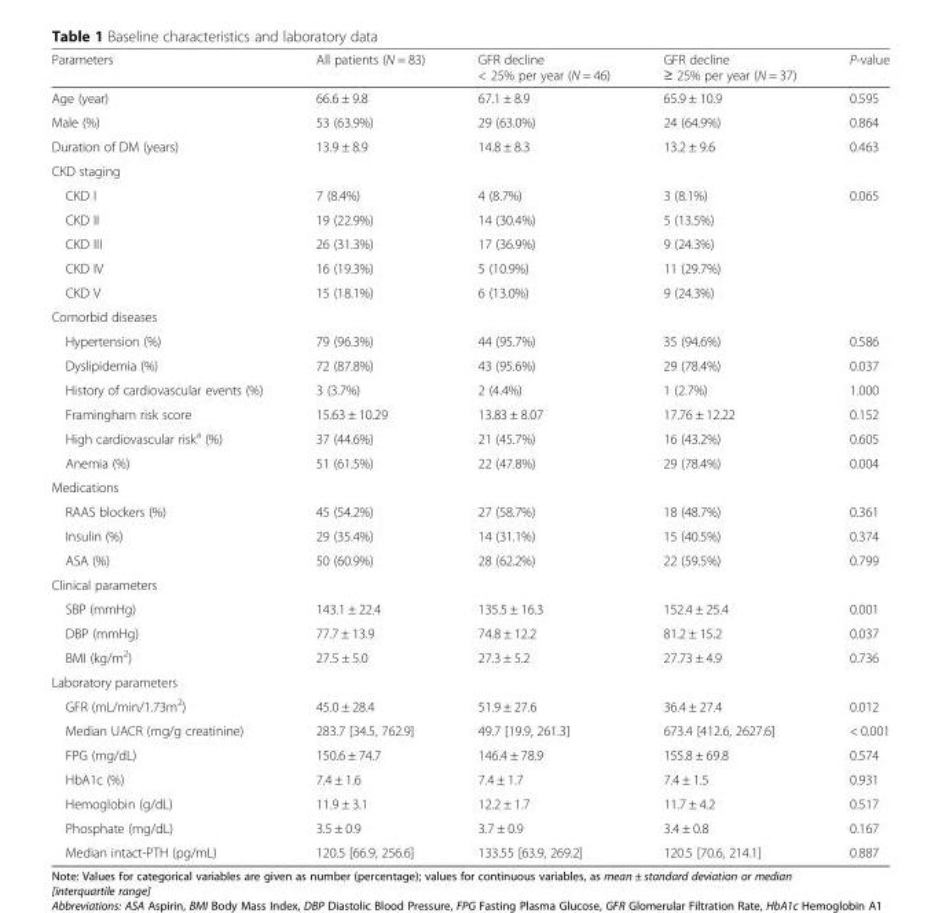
<table><thead><tr><td>Parameters</td><td>All patients (N = 83)</td><td>GFR decline &lt; 25% per year (N = 46)</td><td>GFR decline ≥ 25% per year (N = 37)</td><td>P-value</td></tr></thead><tbody><tr><td>Age (year)</td><td>66.6 ± 9.8</td><td>67.1 ± 8.9</td><td>65.9 ± 10.9</td><td>0.595</td></tr><tr><td>Male (%)</td><td>53 (63.9%)</td><td>29 (63.0%)</td><td>24 (64.9%)</td><td>0.864</td></tr><tr><td>Duration of DM (years)</td><td>13.9 ± 8.9</td><td>14.8 ± 8.3</td><td>13.2 ± 9.6</td><td>0.463</td></tr><tr><td colspan="5">CKD staging</td></tr><tr><td>CKD I</td><td>7 (8.4%)</td><td>4 (8.7%)</td><td>3 (8.1%)</td><td>0.065</td></tr><tr><td>CKD II</td><td>19 (22.9%)</td><td>14 (30.4%)</td><td>5 (13.5%)</td><td></td></tr><tr><td>CKD III</td><td>26 (31.3%)</td><td>17 (36.9%)</td><td>9 (24.3%)</td><td></td></tr><tr><td>CKD IV</td><td>16 (19.3%)</td><td>5 (10.9%)</td><td>11 (29.7%)</td><td></td></tr><tr><td>CKD V</td><td>15 (18.1%)</td><td>6 (13.0%)</td><td>9 (24.3%)</td><td></td></tr><tr><td colspan="5">Comorbid diseases</td></tr><tr><td>Hypertension (%)</td><td>79 (96.3%)</td><td>44 (95.7%)</td><td>35 (94.6%)</td><td>0.586</td></tr><tr><td>Dyslipidemia (%)</td><td>72 (87.8%)</td><td>43 (95.6%)</td><td>29 (78.4%)</td><td>0.037</td></tr><tr><td>History of cardiovascular events (%)</td><td>3 (3.7%)</td><td>2 (4.4%)</td><td>1 (2.7%)</td><td>1.000</td></tr><tr><td>Framingham risk score</td><td>15.63 ± 10.29</td><td>13.83 ± 8.07</td><td>17.76 ± 12.22</td><td>0.152</td></tr><tr><td>High cardiovascular risk<sup>a</sup> (%)</td><td>37 (44.6%)</td><td>21 (45.7%)</td><td>16 (43.2%)</td><td>0.605</td></tr><tr><td>Anemia (%)</td><td>51 (61.5%)</td><td>22 (47.8%)</td><td>29 (78.4%)</td><td>0.004</td></tr><tr><td colspan="5">Medications</td></tr><tr><td>RAAS blockers (%)</td><td>45 (54.2%)</td><td>27 (58.7%)</td><td>18 (48.7%)</td><td>0.361</td></tr><tr><td>Insulin (%)</td><td>29 (35.4%)</td><td>14 (31.1%)</td><td>15 (40.5%)</td><td>0.374</td></tr><tr><td>ASA (%)</td><td>50 (60.9%)</td><td>28 (62.2%)</td><td>22 (59.5%)</td><td>0.799</td></tr><tr><td colspan="5">Clinical parameters</td></tr><tr><td>SBP (mmHg)</td><td>143.1 ± 22.4</td><td>135.5 ± 16.3</td><td>152.4 ± 25.4</td><td>0.001</td></tr><tr><td>DBP (mmHg)</td><td>77.7 ± 13.9</td><td>74.8 ± 12.2</td><td>81.2 ± 15.2</td><td>0.037</td></tr><tr><td>BMI (kg/m<sup>2</sup>)</td><td>27.5 ± 5.0</td><td>27.3 ± 5.2</td><td>27.73 ± 4.9</td><td>0.736</td></tr><tr><td colspan="5">Laboratory parameters</td></tr><tr><td>GFR (mL/min/1.73m<sup>2</sup>)</td><td>45.0 ± 28.4</td><td>51.9 ± 27.6</td><td>36.4 ± 27.4</td><td>0.012</td></tr><tr><td>Median UACR (mg/g creatinine)</td><td>283.7 [34.5, 762.9]</td><td>49.7 [19.9, 261.3]</td><td>673.4 [412.6, 2627.6]</td><td>&lt; 0.001</td></tr><tr><td>FPG (mg/dL)</td><td>150.6 ± 74.7</td><td>146.4 ± 78.9</td><td>155.8 ± 69.8</td><td>0.574</td></tr><tr><td>HbA1c (%)</td><td>7.4 ± 1.6</td><td>7.4 ± 1.7</td><td>7.4 ± 1.5</td><td>0.931</td></tr><tr><td>Hemoglobin (g/dL)</td><td>11.9 ± 3.1</td><td>12.2 ± 1.7</td><td>11.7 ± 4.2</td><td>0.517</td></tr><tr><td>Phosphate (mg/dL)</td><td>3.5 ± 0.9</td><td>3.7 ± 0.9</td><td>3.4 ± 0.8</td><td>0.167</td></tr><tr><td>Median intact-PTH (pg/mL)</td><td>120.5 [66.9, 256.6]</td><td>133.55 [63.9, 269.2]</td><td>120.5 [70.6, 214.1]</td><td>0.887</td></tr></tbody></table>